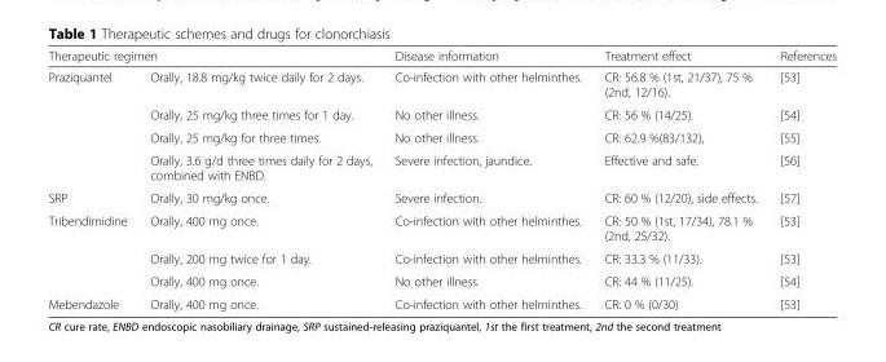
<table><thead><tr><td colspan="2">Therapeutic regimen</td><td rowspan="2">Disease information Co-infection with other helminthes.</td><td rowspan="2">Treatment effect CR: 56.8 % (1st, 21/37), 75 % (2nd, 12/16).</td><td rowspan="2">References [53]</td></tr><tr><td>Praziquantel</td><td>Orally, 18.8 mg/kg twice daily for 2 days.</td></tr></thead><tbody><tr><td></td><td>Orally, 25 mg/kg three times for 1 day.</td><td>No other illness.</td><td>CR: 56 % (14/25).</td><td>[54]</td></tr><tr><td></td><td>Orally, 25 mg/kg for three times.</td><td>No other illness.</td><td>CR: 62.9 %(83/132),</td><td>[55]</td></tr><tr><td></td><td>Orally, 3.6 g/d three times daily for 2 days, combined with ENBD.</td><td>Severe infection, jaundice.</td><td>Effective and safe.</td><td>[56]</td></tr><tr><td>SRP</td><td>Orally, 30 mg/kg once.</td><td>Severe infection.</td><td>CR: 60 % (12/20), side effects.</td><td>[57]</td></tr><tr><td rowspan="3">Tribendimidine</td><td>Orally, 400 mg once.</td><td>Co-infection with other helminthes.</td><td>CR: 50 % (1st, 17/34), 78.1 % (2nd, 25/32).</td><td>[53]</td></tr><tr><td>Orally, 200 mg twice for 1 day.</td><td>Co-infection with other helminthes.</td><td>CR: 33.3 % (11/33).</td><td>[53]</td></tr><tr><td>Orally, 400 mg once.</td><td>No other illness.</td><td>CR: 44 % (11/25).</td><td>[54]</td></tr><tr><td>Mebendazole</td><td>Orally, 400 mg once.</td><td>Co-infection with other helminthes.</td><td>CR: 0 % (0/30)</td><td>[53]</td></tr></tbody></table>